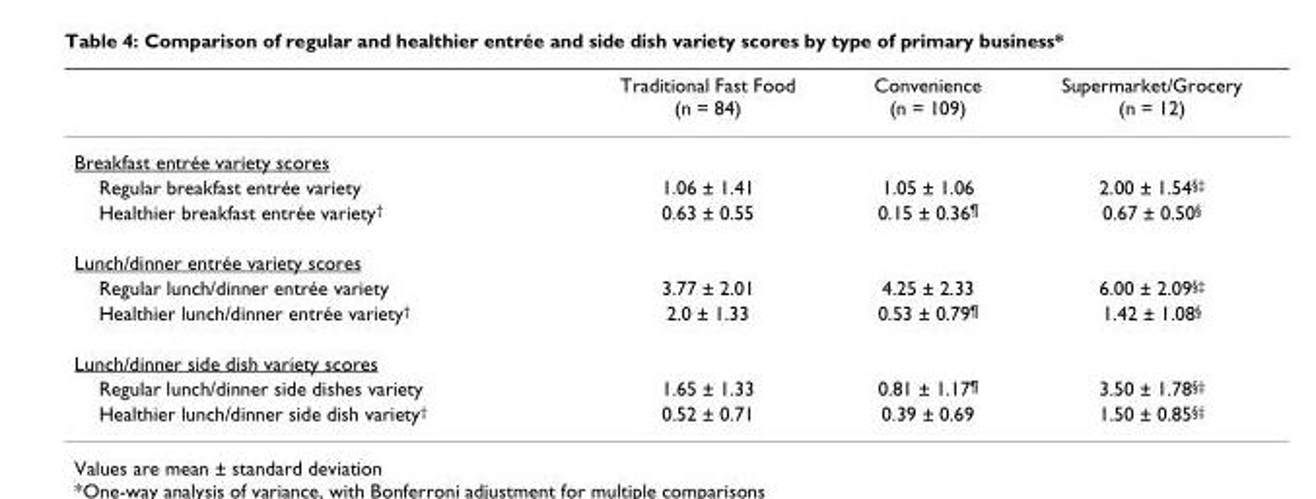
<table><thead><tr><td></td><td>Traditional Fast Food (n = 84)</td><td>Convenience (n = 109)</td><td>Supermarket/Grocery (n = 12)</td></tr></thead><tbody><tr><td colspan="4">Breakfast entrée variety scores</td></tr><tr><td>Regular breakfast entrée variety</td><td>1.06 ± 1.41</td><td>1.05 ± 1.06</td><td>2.00 ± 1.54<sup>§‡</sup></td></tr><tr><td>Healthier breakfast entrée variety<sup>†</sup></td><td>0.63 ± 0.55</td><td>0.15 ± 0.36<sup>¶</sup></td><td>0.67 ± 0.50<sup>§</sup></td></tr><tr><td colspan="4">Lunch/dinner entrée variety scores</td></tr><tr><td>Regular lunch/dinner entrée variety</td><td>3.77 ± 2.01</td><td>4.25 ± 2.33</td><td>6.00 ± 2.09<sup>§‡</sup></td></tr><tr><td>Healthier lunch/dinner entrée variety<sup>†</sup></td><td>2.0 ± 1.33</td><td>0.53 ± 0.79<sup>¶</sup></td><td>1.42 ± 1.08<sup>§</sup></td></tr><tr><td colspan="4">Lunch/dinner side dish variety scores</td></tr><tr><td>Regular lunch/dinner side dishes variety</td><td>1.65 ± 1.33</td><td>0.81 ± 1.17<sup>¶</sup></td><td>3.50 ± 1.78<sup>§‡</sup></td></tr><tr><td>Healthier lunch/dinner side dish variety<sup>†</sup></td><td>0.52 ± 0.71</td><td>0.39 ± 0.69</td><td>1.50 ± 0.85<sup>§‡</sup></td></tr></tbody></table>